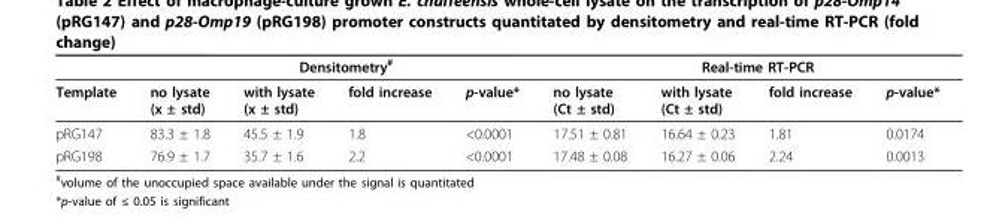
<table><thead><tr><td rowspan="2">Template</td><td colspan="4">Densitometry<sup>#</sup></td><td colspan="4">Real-time RT-PCR</td></tr><tr><td>no lysate (x ± std)</td><td>with lysate (x ± std)</td><td>fold increase</td><td>p-value*</td><td>no lysate (Ct ± std)</td><td>with lysate (Ct ± std)</td><td>fold increase</td><td>p-value*</td></tr></thead><tbody><tr><td>pRG147</td><td>83.3 ± 1.8</td><td>45.5 ± 1.9</td><td>1.8</td><td>&lt;0.0001</td><td>17.51 ± 0.81</td><td>16.64 ± 0.23</td><td>1.81</td><td>0.0174</td></tr><tr><td>pRG198</td><td>76.9 ± 1.7</td><td>35.7 ± 1.6</td><td>2.2</td><td>&lt;0.0001</td><td>17.48 ± 0.08</td><td>16.27 ± 0.06</td><td>2.24</td><td>0.0013</td></tr></tbody></table>